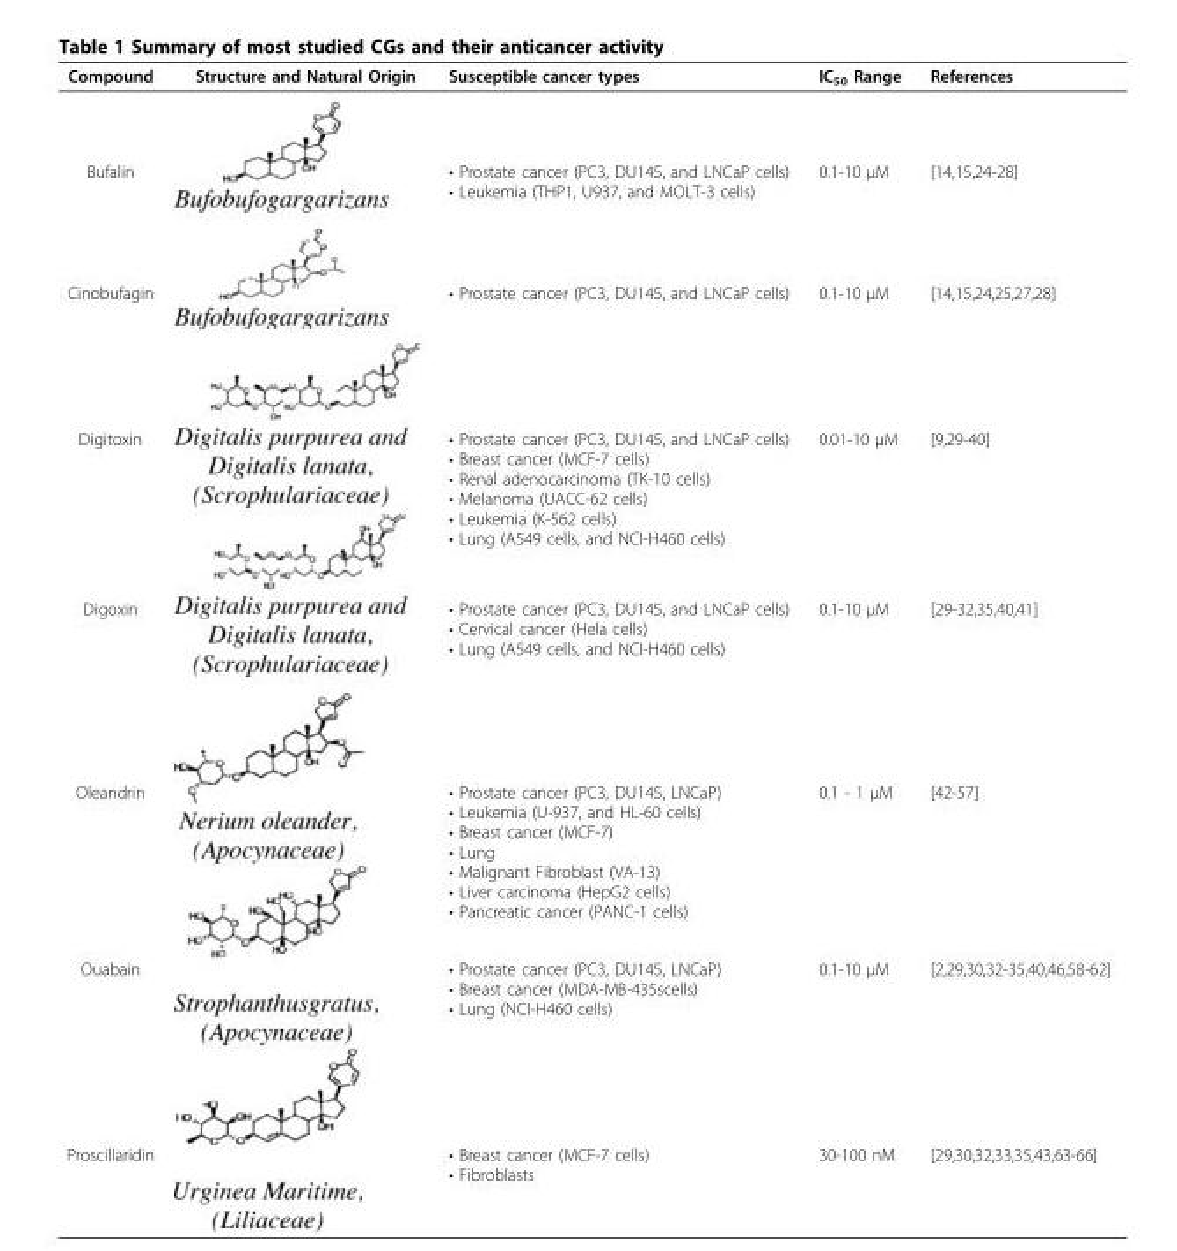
<table><thead><tr><td>Compound</td><td>Structure and Natural Origin</td><td>Susceptible cancer types</td><td>IC<sub>50</sub> Range</td><td>References</td></tr></thead><tbody><tr><td>Bufalin</td><td></td><td>• Prostate cancer (PC3, DU145, and LNCaP cells) • Leukemia (THP1, U937, and MOLT-3 cells)</td><td>0.1-10 μM</td><td>[14,15,24-28]</td></tr><tr><td>Cinobufagin</td><td></td><td>• Prostate cancer (PC3, DU145, and LNCaP cells)</td><td>0.1-10 μM</td><td>[14,15,24,25,27,28]</td></tr><tr><td>Digitoxin</td><td></td><td>• Prostate cancer (PC3, DU145, and LNCaP cells) • Breast cancer (MCF-7 cells) • Renal adenocarcinoma (TK-10 cells) • Melanoma (UACC-62 cells) • Leukemia (K-562 cells) • Lung (A549 cells, and NCI-H460 cells)</td><td>0.01-10 μM</td><td>[9,29-40]</td></tr><tr><td>Digoxin</td><td></td><td>• Prostate cancer (PC3, DU145, and LNCaP cells) • Cervical cancer (Hela cells) • Lung (A549 cells, and NCI-H460 cells)</td><td>0.1-10 μM</td><td>[29-32,35,40,41]</td></tr><tr><td>Oleandrin</td><td></td><td>• Prostate cancer (PC3, DU145, LNCaP) • Leukemia (U-937, and HL-60 cells) • Breast cancer (MCF-7) • Lung • Malignant Fibroblast (VA-13) • Liver carcinoma (HepG2 cells) • Pancreatic cancer (PANC-1 cells)</td><td>0.1 - 1 μM</td><td>[42-57]</td></tr><tr><td>Ouabain</td><td></td><td>• Prostate cancer (PC3, DU145, LNCaP) • Breast cancer (MDA-MB-435scells) • Lung (NCI-H460 cells)</td><td>0.1-10 μM</td><td>[2,29,30,32-35,40,46,58-62]</td></tr><tr><td>Proscillaridin</td><td></td><td>• Breast cancer (MCF-7 cells) • Fibroblasts</td><td>30-100 nM</td><td>[29,30,32,33,35,43,63-66]</td></tr></tbody></table>